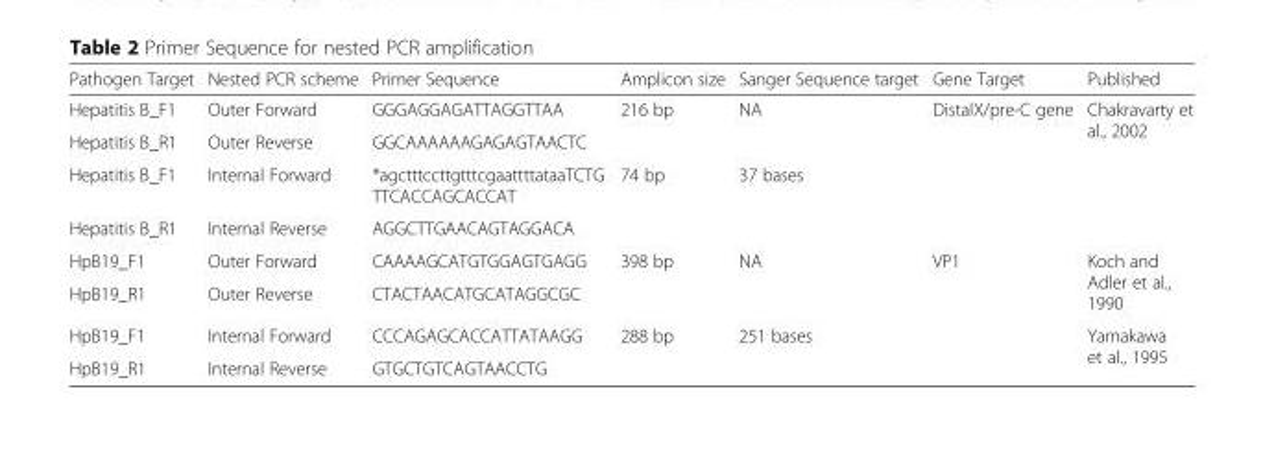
<table><thead><tr><td>Pathogen Target</td><td>Nested PCR scheme</td><td>Primer Sequence</td><td>Amplicon size</td><td>Sanger Sequence target</td><td>Gene Target</td><td>Published</td></tr></thead><tbody><tr><td>Hepatitis B_F1</td><td>Outer Forward</td><td>GGGAGGAGATTAGGTTAA</td><td rowspan="2">216 bp</td><td rowspan="2">NA</td><td rowspan="4">DistalX/pre-C gene</td><td rowspan="4">Chakravarty et al., 2002</td></tr><tr><td>Hepatitis B_R1</td><td>Outer Reverse</td><td>GGCAAAAAAGAGAGTAACTC</td></tr><tr><td>Hepatitis B_F1</td><td>Internal Forward</td><td>*agctttccttgtttcgaattttataaTCTG TTCACCAGCACCAT</td><td rowspan="2">74 bp</td><td rowspan="2">37 bases</td></tr><tr><td>Hepatitis B_R1</td><td>Internal Reverse</td><td>AGGCTTGAACAGTAGGACA</td></tr><tr><td>HpB19_F1</td><td>Outer Forward</td><td>CAAAAGCATGTGGAGTGAGG</td><td rowspan="2">398 bp</td><td rowspan="2">NA</td><td rowspan="4">VP1</td><td rowspan="2">Koch and Adler et al., 1990</td></tr><tr><td>HpB19_R1</td><td>Outer Reverse</td><td>CTACTAACATGCATAGGCGC</td></tr><tr><td>HpB19_F1</td><td>Internal Forward</td><td>CCCAGAGCACCATTATAAGG</td><td rowspan="2">288 bp</td><td rowspan="2">251 bases</td><td rowspan="2">Yamakawa et al., 1995</td></tr><tr><td>HpB19_R1</td><td>Internal Reverse</td><td>GTGCTGTCAGTAACCTG</td></tr></tbody></table>